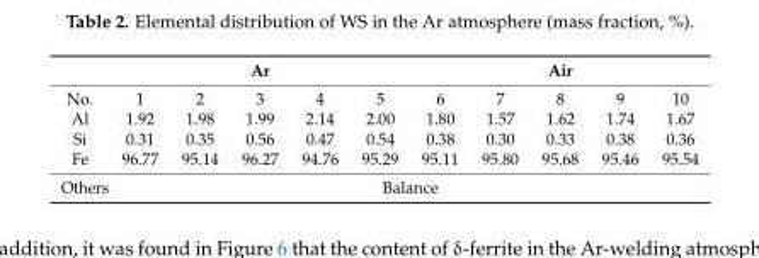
<table><thead><tr><td rowspan="2">No.</td><td colspan="5">Ar</td><td colspan="5">Air</td></tr><tr><td>1</td><td>2</td><td>3</td><td>4</td><td>5</td><td>6</td><td>7</td><td>8</td><td>9</td><td>10</td></tr></thead><tbody><tr><td>Al</td><td>1.92</td><td>1.98</td><td>1.99</td><td>2.14</td><td>2.00</td><td>1.80</td><td>1.57</td><td>1.62</td><td>1.74</td><td>1.67</td></tr><tr><td>Si</td><td>0.31</td><td>0.35</td><td>0.56</td><td>0.47</td><td>0.54</td><td>0.38</td><td>0.30</td><td>0.33</td><td>0.38</td><td>0.36</td></tr><tr><td>Fe</td><td>96.77</td><td>95.14</td><td>96.27</td><td>94.76</td><td>95.29</td><td>95.11</td><td>95.80</td><td>95.68</td><td>95.46</td><td>95.54</td></tr><tr><td>Others</td><td colspan="10">Balance</td></tr></tbody></table>